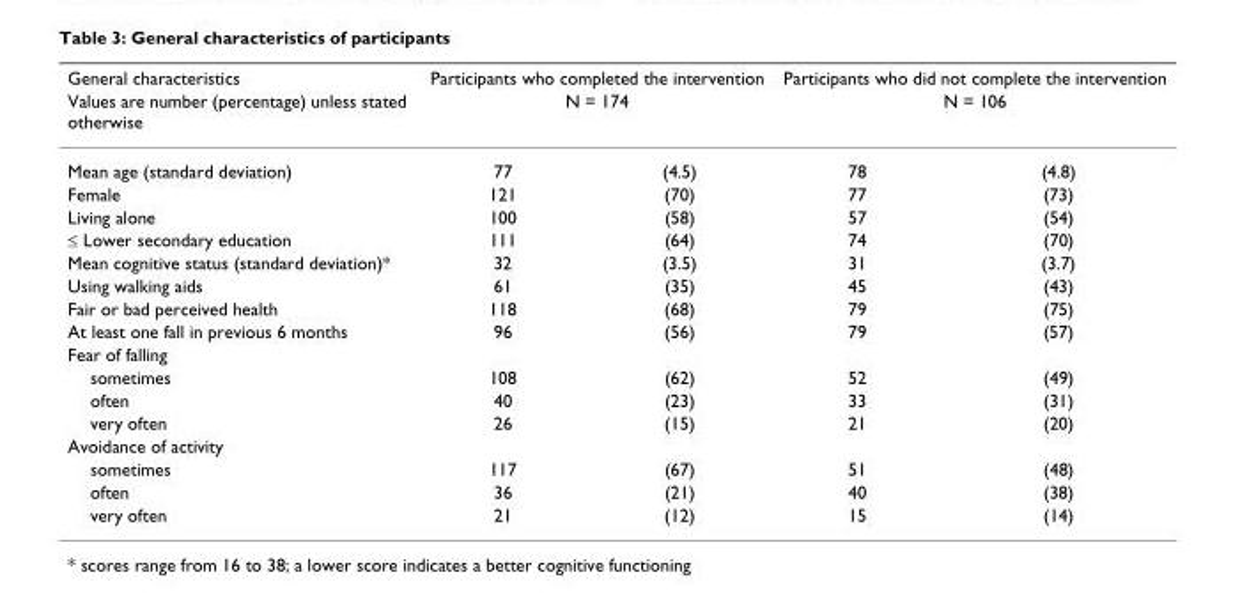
<table><thead><tr><td rowspan="3">General characteristics Values are number (percentage) unless stated otherwise Mean age (standard deviation)</td><td rowspan="2" colspan="2">Participants who completed the intervention N = 174</td><td rowspan="2" colspan="2">Participants who did not complete the intervention N = 106</td></tr><tr></tr><tr><td>77</td><td>(4.5)</td><td>78</td><td>(4.8)</td></tr></thead><tbody><tr><td>Female</td><td>121</td><td>(70)</td><td>77</td><td>(73)</td></tr><tr><td>Living alone</td><td>100</td><td>(58)</td><td>57</td><td>(54)</td></tr><tr><td>≤ Lower secondary education</td><td>111</td><td>(64)</td><td>74</td><td>(70)</td></tr><tr><td>Mean cognitive status (standard deviation)*</td><td>32</td><td>(3.5)</td><td>31</td><td>(3.7)</td></tr><tr><td>Using walking aids</td><td>61</td><td>(35)</td><td>45</td><td>(43)</td></tr><tr><td>Fair or bad perceived health</td><td>118</td><td>(68)</td><td>79</td><td>(75)</td></tr><tr><td>At least one fall in previous 6 months</td><td>96</td><td>(56)</td><td>79</td><td>(57)</td></tr><tr><td colspan="5">Fear of falling</td></tr><tr><td>sometimes</td><td>108</td><td>(62)</td><td>52</td><td>(49)</td></tr><tr><td>often</td><td>40</td><td>(23)</td><td>33</td><td>(31)</td></tr><tr><td>very often</td><td>26</td><td>(15)</td><td>21</td><td>(20)</td></tr><tr><td colspan="5">Avoidance of activity</td></tr><tr><td>sometimes</td><td>117</td><td>(67)</td><td>51</td><td>(48)</td></tr><tr><td>often</td><td>36</td><td>(21)</td><td>40</td><td>(38)</td></tr><tr><td>very often</td><td>21</td><td>(12)</td><td>15</td><td>(14)</td></tr></tbody></table>